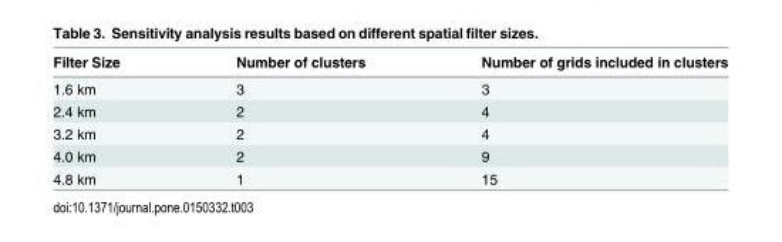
<table><thead><tr><td>Filter Size</td><td>Number of clusters</td><td>Number of grids included in clusters</td></tr></thead><tbody><tr><td>1.6 km</td><td>3</td><td>3</td></tr><tr><td>2.4 km</td><td>2</td><td>4</td></tr><tr><td>3.2 km</td><td>2</td><td>4</td></tr><tr><td>4.0 km</td><td>2</td><td>9</td></tr><tr><td>4.8 km</td><td>1</td><td>15</td></tr></tbody></table>